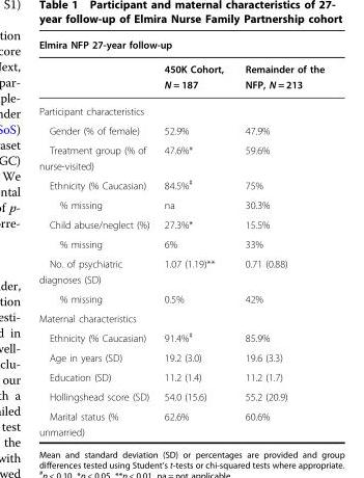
<table><thead><tr><td colspan="3">Elmira NFP 27-year follow-up</td></tr><tr><td></td><td>450K Cohort, N = 187</td><td>Remainder of the NFP, N = 213</td></tr></thead><tbody><tr><td colspan="3">Participant characteristics</td></tr><tr><td>Gender (% of female)</td><td>52.9%</td><td>47.9%</td></tr><tr><td>Treatment group (% of nurse-visited)</td><td>47.6%*</td><td>59.6%</td></tr><tr><td>Ethnicity (% Caucasian)</td><td>84.5%<sup>#</sup></td><td>75%</td></tr><tr><td>% missing</td><td>na</td><td>30.3%</td></tr><tr><td>Child abuse/neglect (%)</td><td>27.3%*</td><td>15.5%</td></tr><tr><td>% missing</td><td>6%</td><td>33%</td></tr><tr><td>No. of psychiatric diagnoses (SD)</td><td>1.07 (1.19)**</td><td>0.71 (0.88)</td></tr><tr><td>% missing</td><td>0.5%</td><td>42%</td></tr><tr><td colspan="3">Maternal characteristics</td></tr><tr><td>Ethnicity (% Caucasian)</td><td>91.4%<sup>#</sup></td><td>85.9%</td></tr><tr><td>Age in years (SD)</td><td>19.2 (3.0)</td><td>19.6 (3.3)</td></tr><tr><td>Education (SD)</td><td>11.2 (1.4)</td><td>11.2 (1.7)</td></tr><tr><td>Hollingshead score (SD)</td><td>54.0 (15.6)</td><td>55.2 (20.9)</td></tr><tr><td>Marital status (% unmarried)</td><td>62.6%</td><td>60.6%</td></tr></tbody></table>